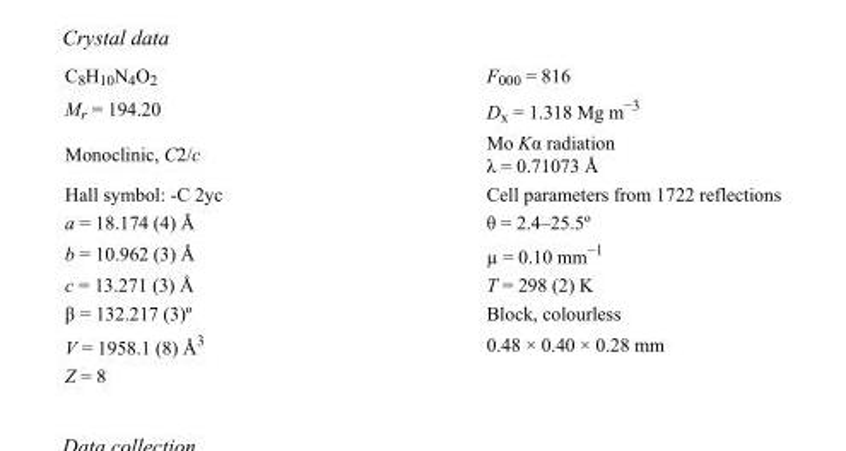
<table><tbody><tr><td>C<sub>8</sub>H<sub>10</sub>N<sub>4</sub>O<sub>2</sub></td><td>F<sub>000</sub> = 816</td></tr><tr><td>M<sub>r</sub> = 194.20</td><td>D<sub>x</sub> = 1.318 Mg m<sup>−3</sup></td></tr><tr><td>Monoclinic, C2/c</td><td>Mo Kα radiation λ = 0.71073 Å</td></tr><tr><td>Hall symbol: -C 2yc</td><td>Cell parameters from 1722 reflections</td></tr><tr><td>a = 18.174 (4) Å</td><td>θ = 2.4–25.5º</td></tr><tr><td>b = 10.962 (3) Å</td><td>µ = 0.10 mm<sup>−1</sup></td></tr><tr><td>c = 13.271 (3) Å</td><td>T = 298 (2) K</td></tr><tr><td>β = 132.217 (3)º</td><td>Block, colourless</td></tr><tr><td>V = 1958.1 (8) Å<sup>3</sup></td><td>0.48 × 0.40 × 0.28 mm</td></tr><tr><td>Z = 8</td><td></td></tr></tbody></table>